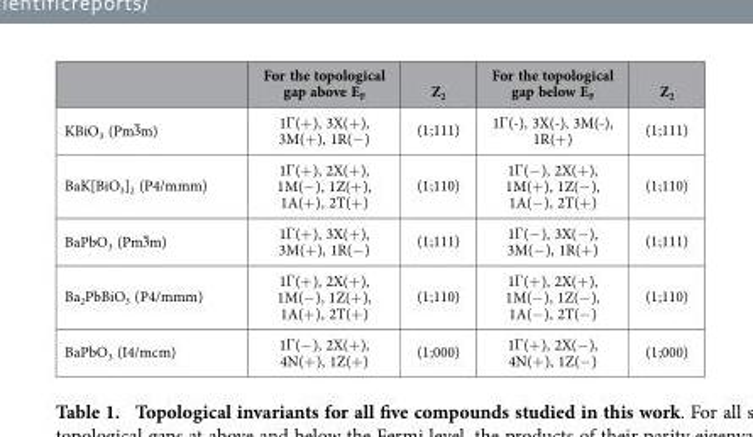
<table><thead><tr><td></td><td>For the topological gap above E<sub>F</sub></td><td>Z<sub>2</sub></td><td>For the topological gap below E<sub>F</sub></td><td>Z<sub>2</sub></td></tr></thead><tbody><tr><td>KBiO3 (Pm3m)</td><td>1Γ(+ ), 3X(+ ), 3M(+ ), 1R(− )</td><td>(1;111)</td><td>1Γ(-), 3X(-), 3M(-), 1R(+ )</td><td>(1;111)</td></tr><tr><td>BaK[BiO<sub>3</sub>]<sub>2</sub> (P4/mmm)</td><td>1Γ(+ ), 2X(+ ), 1M(− ), 1Z(+ ), 1A(+ ), 2T(+ )</td><td>(1;110)</td><td>1Γ(− ), 2X(+ ), 1M(+ ), 1Z(− ), 1A(− ), 2T(+ )</td><td>(1;110)</td></tr><tr><td>BaPbO3 (Pm3m)</td><td>1Γ(+ ), 3X(+ ), 3M(+ ), 1R(− )</td><td>(1;111)</td><td>1Γ(− ), 3X(− ), 3M(− ), 1R(+ )</td><td>(1;111)</td></tr><tr><td>Ba<sub>2</sub>PbBiO<sub>3</sub> (P4/mmm)</td><td>1Γ(+ ), 2X(+ ), 1M(− ), 1Z(+ ), 1A(+ ), 2T(+ )</td><td>(1;110)</td><td>1Γ(+ ), 2X(+ ), 1M(− ), 1Z(− ), 1A(− ), 2T(− )</td><td>(1;110)</td></tr><tr><td>BaPbO<sub>3</sub> (I4/mcm)</td><td>1Γ(− ), 2X(+ ), 4N(+ ), 1Z(+ )</td><td>(1;000)</td><td>1Γ(+ ), 2X(− ), 4N(+ ), 1Z(− )</td><td>(1;000)</td></tr></tbody></table>